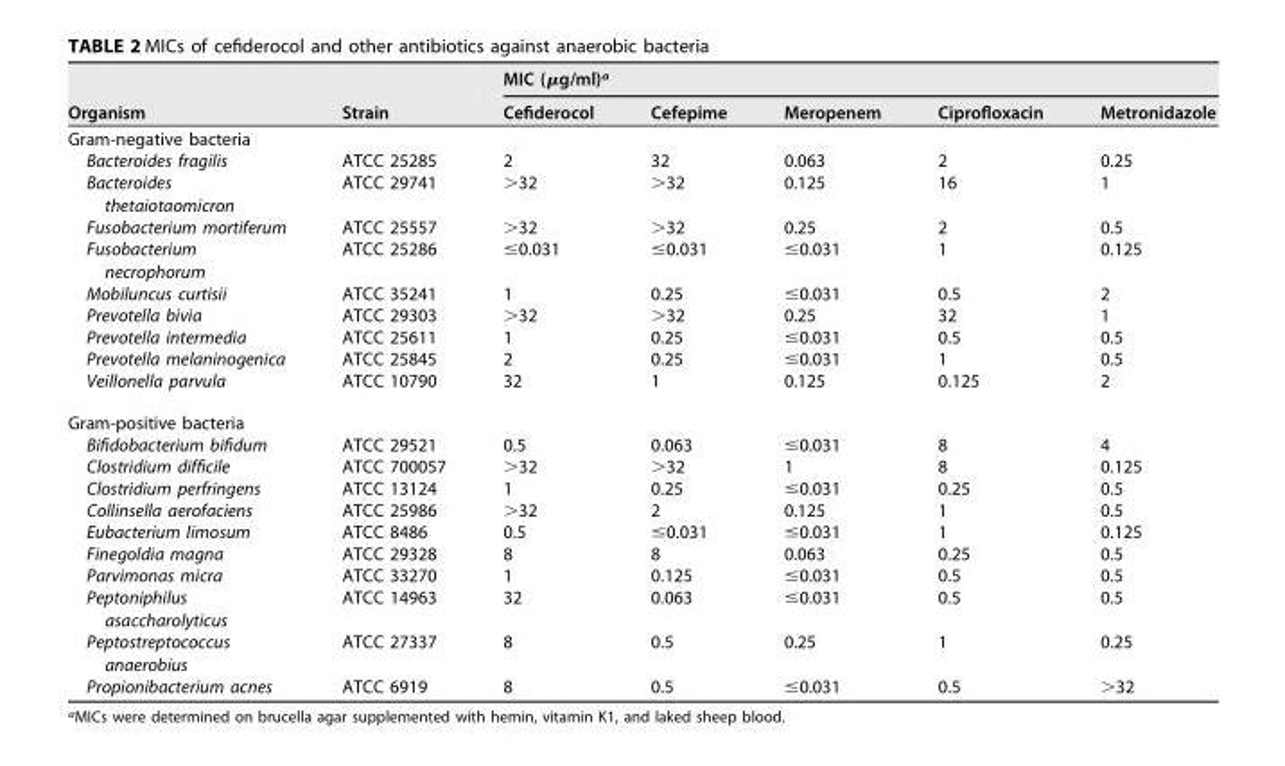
<table><thead><tr><td rowspan="2">Organism</td><td rowspan="2">Strain</td><td colspan="5">MIC (μg/ml)<sup>a</sup></td></tr><tr><td>Cefiderocol</td><td>Cefepime</td><td>Meropenem</td><td>Ciprofloxacin</td><td>Metronidazole</td></tr></thead><tbody><tr><td colspan="7">Gram-negative bacteria</td></tr><tr><td>Bacteroides fragilis</td><td>ATCC 25285</td><td>2</td><td>32</td><td>0.063</td><td>2</td><td>0.25</td></tr><tr><td>Bacteroides thetaiotaomicron</td><td>ATCC 29741</td><td>&gt;32</td><td>&gt;32</td><td>0.125</td><td>16</td><td>1</td></tr><tr><td>Fusobacterium mortiferum</td><td>ATCC 25557</td><td>&gt;32</td><td>&gt;32</td><td>0.25</td><td>2</td><td>0.5</td></tr><tr><td>Fusobacterium necrophorum</td><td>ATCC 25286</td><td>≤0.031</td><td>≤0.031</td><td>≤0.031</td><td>1</td><td>0.125</td></tr><tr><td>Mobiluncus curtisii</td><td>ATCC 35241</td><td>1</td><td>0.25</td><td>≤0.031</td><td>0.5</td><td>2</td></tr><tr><td>Prevotella bivia</td><td>ATCC 29303</td><td>&gt;32</td><td>&gt;32</td><td>0.25</td><td>32</td><td>1</td></tr><tr><td>Prevotella intermedia</td><td>ATCC 25611</td><td>1</td><td>0.25</td><td>≤0.031</td><td>0.5</td><td>0.5</td></tr><tr><td>Prevotella melaninogenica</td><td>ATCC 25845</td><td>2</td><td>0.25</td><td>≤0.031</td><td>1</td><td>0.5</td></tr><tr><td>Veillonella parvula</td><td>ATCC 10790</td><td>32</td><td>1</td><td>0.125</td><td>0.125</td><td>2</td></tr><tr><td colspan="7">Gram-positive bacteria</td></tr><tr><td>Bifidobacterium bifidum</td><td>ATCC 29521</td><td>0.5</td><td>0.063</td><td>≤0.031</td><td>8</td><td>4</td></tr><tr><td>Clostridium difficile</td><td>ATCC 700057</td><td>&gt;32</td><td>&gt;32</td><td>1</td><td>8</td><td>0.125</td></tr><tr><td>Clostridium perfringens</td><td>ATCC 13124</td><td>1</td><td>0.25</td><td>≤0.031</td><td>0.25</td><td>0.5</td></tr><tr><td>Collinsella aerofaciens</td><td>ATCC 25986</td><td>&gt;32</td><td>2</td><td>0.125</td><td>1</td><td>0.5</td></tr><tr><td>Eubacterium limosum</td><td>ATCC 8486</td><td>0.5</td><td>≤0.031</td><td>≤0.031</td><td>1</td><td>0.125</td></tr><tr><td>Finegoldia magna</td><td>ATCC 29328</td><td>8</td><td>8</td><td>0.063</td><td>0.25</td><td>0.5</td></tr><tr><td>Parvimonas micra</td><td>ATCC 33270</td><td>1</td><td>0.125</td><td>≤0.031</td><td>0.5</td><td>0.5</td></tr><tr><td>Peptoniphilus asaccharolyticus</td><td>ATCC 14963</td><td>32</td><td>0.063</td><td>≤0.031</td><td>0.5</td><td>0.5</td></tr><tr><td>Peptostreptococcus anaerobius</td><td>ATCC 27337</td><td>8</td><td>0.5</td><td>0.25</td><td>1</td><td>0.25</td></tr><tr><td>Propionibacterium acnes</td><td>ATCC 6919</td><td>8</td><td>0.5</td><td>≤0.031</td><td>0.5</td><td>&gt;32</td></tr></tbody></table>